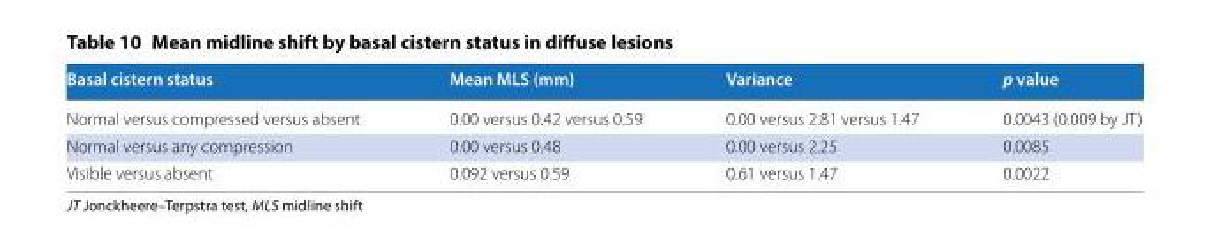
<table><thead><tr><td>Basal cistern status</td><td>Mean MLS (mm)</td><td>Variance</td><td>p value</td></tr></thead><tbody><tr><td>Normal versus compressed versus absent</td><td>0.00 versus 0.42 versus 0.59</td><td>0.00 versus 2.81 versus 1.47</td><td>0.0043 (0.009 by JT)</td></tr><tr><td>Normal versus any compression</td><td>0.00 versus 0.48</td><td>0.00 versus 2.25</td><td>0.0085</td></tr><tr><td>Visible versus absent</td><td>0.092 versus 0.59</td><td>0.61 versus 1.47</td><td>0.0022</td></tr></tbody></table>